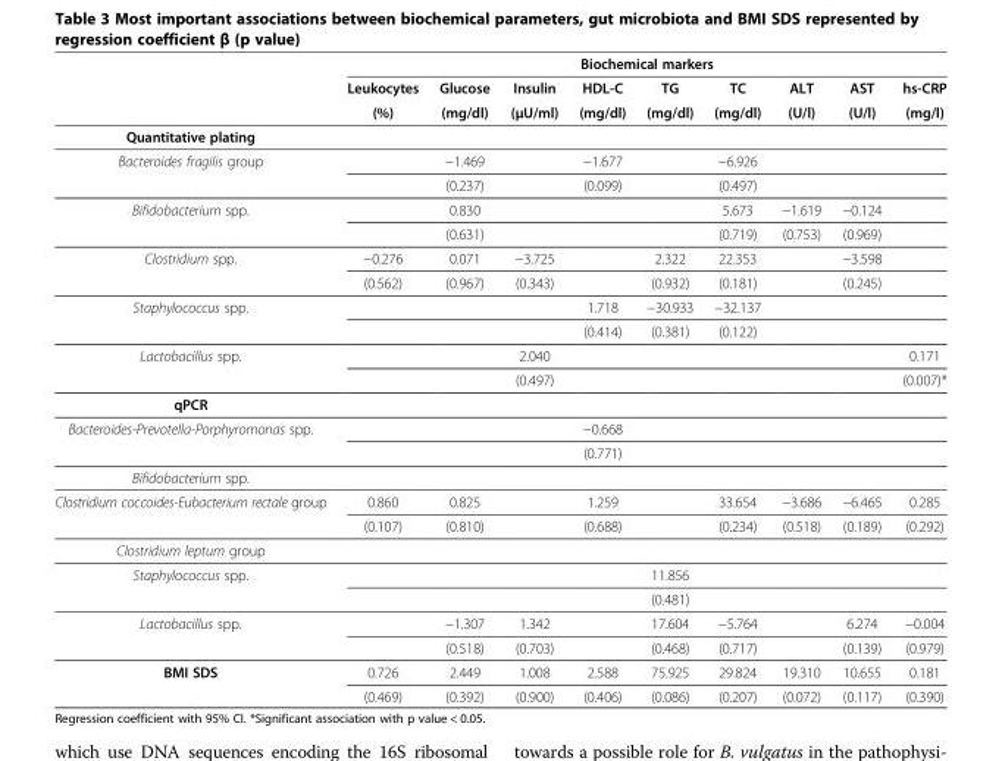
<table><thead><tr><td rowspan="3"></td><td colspan="9">Biochemical markers</td></tr><tr><td rowspan="2">Leukocytes (%)</td><td rowspan="2">Glucose (mg/dl)</td><td rowspan="2">Insulin (μU/ml)</td><td rowspan="2">HDL-C (mg/dl)</td><td rowspan="2">TG (mg/dl)</td><td rowspan="2">TC (mg/dl)</td><td rowspan="2">ALT (U/l)</td><td rowspan="2">AST (U/l)</td><td rowspan="2">hs-CRP (mg/l)</td></tr><tr></tr></thead><tbody><tr><td colspan="10">Quantitative plating</td></tr><tr><td rowspan="2">Bacteroides fragilis group</td><td></td><td>−1.469</td><td></td><td>−1.677</td><td></td><td>−6.926</td><td></td><td></td><td></td></tr><tr><td></td><td>(0.237)</td><td></td><td>(0.099)</td><td></td><td>(0.497)</td><td></td><td></td><td></td></tr><tr><td rowspan="2">Bifidobacterium spp.</td><td></td><td>0.830</td><td></td><td></td><td></td><td>5.673</td><td>−1.619</td><td>−0.124</td><td></td></tr><tr><td></td><td>(0.631)</td><td></td><td></td><td></td><td>(0.719)</td><td>(0.753)</td><td>(0.969)</td><td></td></tr><tr><td rowspan="2">Clostridium spp.</td><td>−0.276</td><td>0.071</td><td>−3.725</td><td></td><td>2.322</td><td>22.353</td><td></td><td>−3.598</td><td></td></tr><tr><td>(0.562)</td><td>(0.967)</td><td>(0.343)</td><td></td><td>(0.932)</td><td>(0.181)</td><td></td><td>(0.245)</td><td></td></tr><tr><td rowspan="2">Staphylococcus spp.</td><td></td><td></td><td></td><td>1.718</td><td>−30.933</td><td>−32.137</td><td></td><td></td><td></td></tr><tr><td></td><td></td><td></td><td>(0.414)</td><td>(0.381)</td><td>(0.122)</td><td></td><td></td><td></td></tr><tr><td rowspan="2">Lactobacillus spp.</td><td></td><td></td><td>2.040</td><td></td><td></td><td></td><td></td><td></td><td>0.171</td></tr><tr><td></td><td></td><td>(0.497)</td><td></td><td></td><td></td><td></td><td></td><td>(0.007)*</td></tr><tr><td colspan="10">qPCR</td></tr><tr><td rowspan="2">Bacteroides-Prevotella-Porphyromonas spp.</td><td></td><td></td><td></td><td>−0.668</td><td></td><td></td><td></td><td></td><td></td></tr><tr><td></td><td></td><td></td><td>(0.771)</td><td></td><td></td><td></td><td></td><td></td></tr><tr><td colspan="10">Bifidobacterium spp.</td></tr><tr><td rowspan="2">Clostridium coccoides-Eubacterium rectale group</td><td>0.860</td><td>0.825</td><td></td><td>1.259</td><td></td><td>33.654</td><td>−3.686</td><td>−6.465</td><td>0.285</td></tr><tr><td>(0.107)</td><td>(0.810)</td><td></td><td>(0.688)</td><td></td><td>(0.234)</td><td>(0.518)</td><td>(0.189)</td><td>(0.292)</td></tr><tr><td colspan="10">Clostridium leptum group</td></tr><tr><td rowspan="2">Staphylococcus spp.</td><td></td><td></td><td></td><td></td><td>11.856</td><td></td><td></td><td></td><td></td></tr><tr><td></td><td></td><td></td><td></td><td>(0.481)</td><td></td><td></td><td></td><td></td></tr><tr><td rowspan="2">Lactobacillus spp.</td><td></td><td>−1.307</td><td>1.342</td><td></td><td>17.604</td><td>−5.764</td><td></td><td>6.274</td><td>−0.004</td></tr><tr><td></td><td>(0.518)</td><td>(0.703)</td><td></td><td>(0.468)</td><td>(0.717)</td><td></td><td>(0.139)</td><td>(0.979)</td></tr><tr><td rowspan="2">BMI SDS</td><td>0.726</td><td>2.449</td><td>1.008</td><td>2.588</td><td>75.925</td><td>29.824</td><td>19.310</td><td>10.655</td><td>0.181</td></tr><tr><td>(0.469)</td><td>(0.392)</td><td>(0.900)</td><td>(0.406)</td><td>(0.086)</td><td>(0.207)</td><td>(0.072)</td><td>(0.117)</td><td>(0.390)</td></tr></tbody></table>